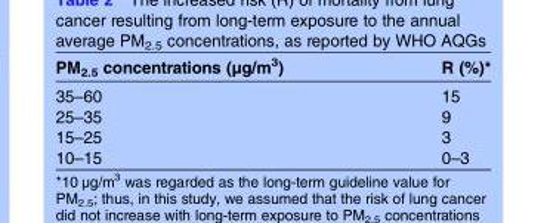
<table><thead><tr><td>PM<sub>2.5</sub> concentrations (µg/m<sup>3</sup>)</td><td>R (%)*</td></tr></thead><tbody><tr><td>35–60</td><td>15</td></tr><tr><td>25–35</td><td>9</td></tr><tr><td>15–25</td><td>3</td></tr><tr><td>10–15</td><td>0–3</td></tr></tbody></table>